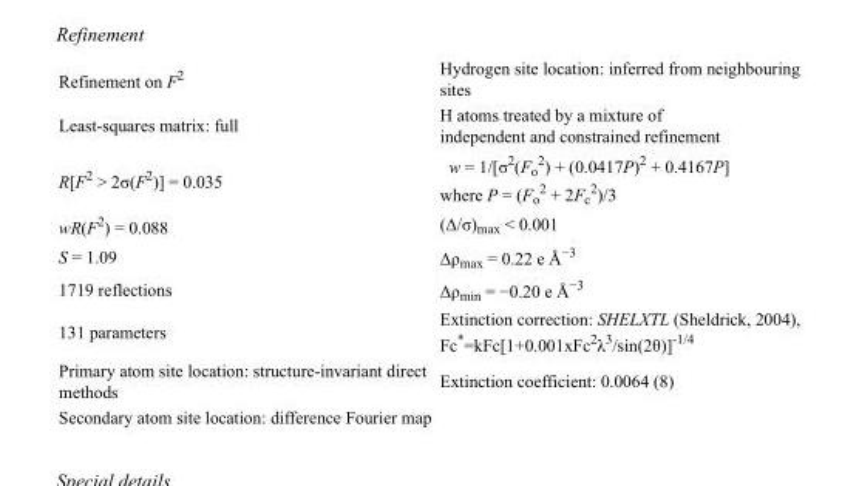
<table><tbody><tr><td>Refinement on F<sup>2</sup></td><td>Hydrogen site location: inferred from neighbouring sites</td></tr><tr><td>Least-squares matrix: full</td><td>H atoms treated by a mixture of independent and constrained refinement</td></tr><tr><td>R[F<sup>2</sup> &gt; 2σ(F<sup>2</sup>)] = 0.035</td><td>w = 1/[σ<sup>2</sup>(F<sub>o</sub> <sup>2</sup>) + (0.0417P)<sup>2</sup> + 0.4167P] where P = (F<sub>o</sub> <sup>2</sup> + 2F<sub>c</sub> <sup>2</sup>)/3</td></tr><tr><td>wR(F<sup>2</sup>) = 0.088</td><td>(Δ/σ)<sub>max</sub> &lt; 0.001</td></tr><tr><td>S = 1.09</td><td>Δρ<sub>max</sub> = 0.22 e Å<sup>−3</sup></td></tr><tr><td>1719 reflections</td><td>Δρ<sub>min</sub> = −0.20 e Å<sup>−3</sup></td></tr><tr><td>131 parameters</td><td>Extinction correction: SHELXTL (Sheldrick, 2004), Fc*=kFc[1+0.001xFc<sup>2</sup>λ<sup>3</sup>/sin(2θ)]<sup>-1/4</sup></td></tr><tr><td>Primary atom site location: structure-invariant direct methods</td><td>Extinction coefficient: 0.0064 (8)</td></tr><tr><td>Secondary atom site location: difference Fourier map</td><td></td></tr></tbody></table>